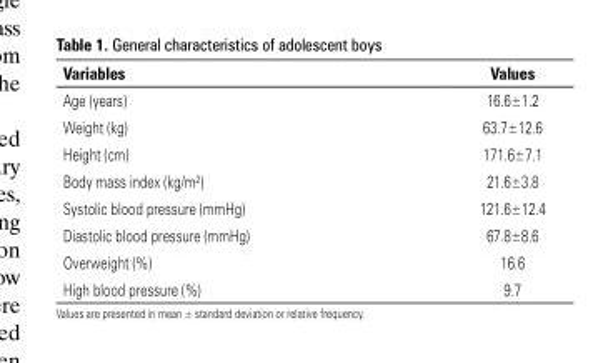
<table><thead><tr><td>Variables</td><td>Values</td></tr></thead><tbody><tr><td>Age (years)</td><td>16.6±1.2</td></tr><tr><td>Weight (kg)</td><td>63.7±12.6</td></tr><tr><td>Height (cm)</td><td>171.6±7.1</td></tr><tr><td>Body mass index (kg/m²)</td><td>21.6±3.8</td></tr><tr><td>Systolic blood pressure (mmHg)</td><td>121.6±12.4</td></tr><tr><td>Diastolic blood pressure (mmHg)</td><td>67.8±8.6</td></tr><tr><td>Overweight (%)</td><td>16.6</td></tr><tr><td>High blood pressure (%)</td><td>9.7</td></tr></tbody></table>